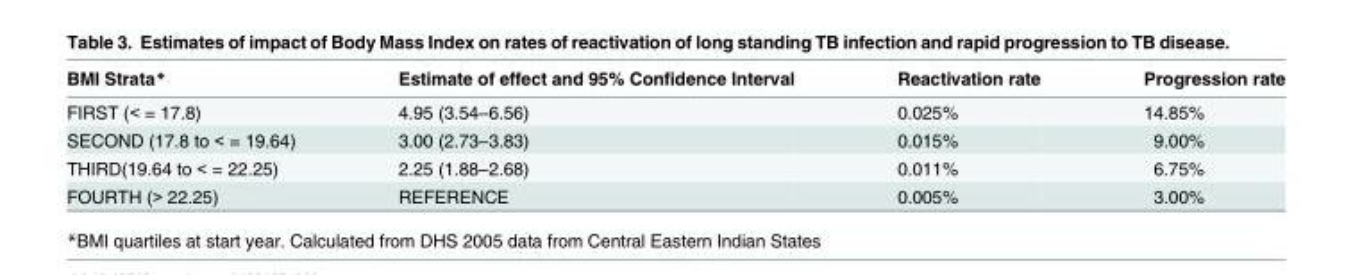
<table><thead><tr><td>BMI Strata*</td><td>Estimate of effect and 95% Confidence Interval</td><td>Reactivation rate</td><td>Progression rate</td></tr></thead><tbody><tr><td>FIRST (&lt; = 17.8)</td><td>4.95 (3.54–6.56)</td><td>0.025%</td><td>14.85%</td></tr><tr><td>SECOND (17.8 to &lt; = 19.64)</td><td>3.00 (2.73–3.83)</td><td>0.015%</td><td>9.00%</td></tr><tr><td>THIRD(19.64 to &lt; = 22.25)</td><td>2.25 (1.88–2.68)</td><td>0.011%</td><td>6.75%</td></tr><tr><td>FOURTH (&gt; 22.25)</td><td>REFERENCE</td><td>0.005%</td><td>3.00%</td></tr></tbody></table>